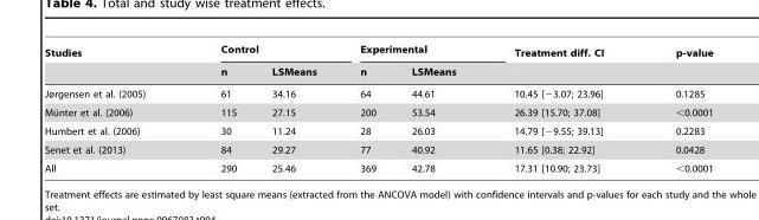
<table><thead><tr><td rowspan="2">Studies</td><td colspan="2">Control</td><td colspan="2">Experimental</td><td rowspan="2">Treatment diff. CI</td><td rowspan="2">p-value</td></tr><tr><td>n</td><td>LSMeans</td><td>n</td><td>LSMeans</td></tr></thead><tbody><tr><td>Jørgensen et al. (2005)</td><td>61</td><td>34.16</td><td>64</td><td>44.61</td><td>10.45 [−3.07; 23.96]</td><td>0.1285</td></tr><tr><td>Mu¨nter et al. (2006)</td><td>115</td><td>27.15</td><td>200</td><td>53.54</td><td>26.39 [15.70; 37.08]</td><td>&lt;0.0001</td></tr><tr><td>Humbert et al. (2006)</td><td>30</td><td>11.24</td><td>28</td><td>26.03</td><td>14.79 [−9.55; 39.13]</td><td>0.2283</td></tr><tr><td>Senet et al. (2013)</td><td>84</td><td>29.27</td><td>77</td><td>40.92</td><td>11.65 [0.38; 22.92]</td><td>0.0428</td></tr><tr><td>All</td><td>290</td><td>25.46</td><td>369</td><td>42.78</td><td>17.31 [10.90; 23.73]</td><td>&lt;0.0001</td></tr></tbody></table>